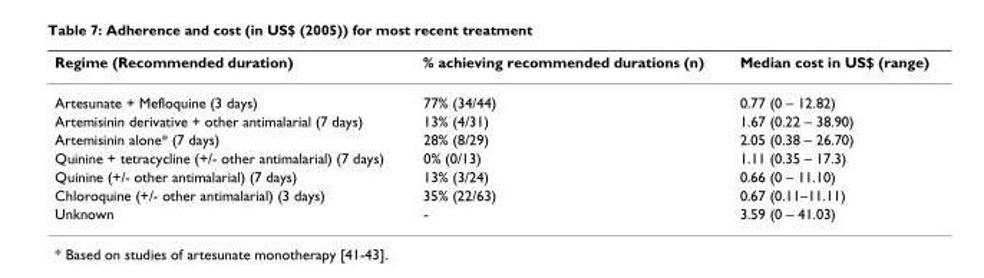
<table><thead><tr><td>Regime (Recommended duration)</td><td>% achieving recommended durations (n)</td><td>Median cost in US$ (range)</td></tr></thead><tbody><tr><td>Artesunate + Mefloquine (3 days)</td><td>77% (34/44)</td><td>0.77 (0 – 12.82)</td></tr><tr><td>Artemisinin derivative + other antimalarial (7 days)</td><td>13% (4/31)</td><td>1.67 (0.22 – 38.90)</td></tr><tr><td>Artemisinin alone* (7 days)</td><td>28% (8/29)</td><td>2.05 (0.38 – 26.70)</td></tr><tr><td>Quinine + tetracycline (+/- other antimalarial) (7 days)</td><td>0% (0/13)</td><td>1.11 (0.35 – 17.3)</td></tr><tr><td>Quinine (+/- other antimalarial) (7 days)</td><td>13% (3/24)</td><td>0.66 (0 – 11.10)</td></tr><tr><td>Chloroquine (+/- other antimalarial) (3 days)</td><td>35% (22/63)</td><td>0.67 (0.11–11.11)</td></tr><tr><td>Unknown</td><td>-</td><td>3.59 (0 – 41.03)</td></tr></tbody></table>